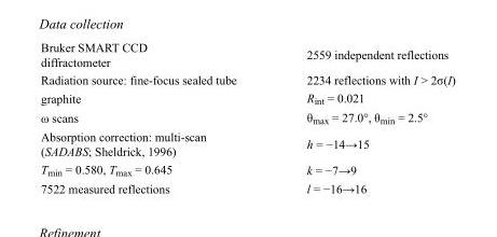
<table><tbody><tr><td>Bruker SMART CCD diffractometer</td><td>2559 independent reflections</td></tr><tr><td>Radiation source: fine-focus sealed tube</td><td>2234 reflections with I &gt; 2σ(I)</td></tr><tr><td>graphite</td><td>R<sub>int</sub> = 0.021</td></tr><tr><td>ω scans</td><td>θ<sub>max</sub> = 27.0°, θ<sub>min</sub> = 2.5°</td></tr><tr><td>Absorption correction: multi-scan (SADABS; Sheldrick, 1996)</td><td>h = −14→15</td></tr><tr><td>T<sub>min</sub> = 0.580, T<sub>max</sub> = 0.645</td><td>k = −7→9</td></tr><tr><td>7522 measured reflections</td><td>l = −16→16</td></tr></tbody></table>